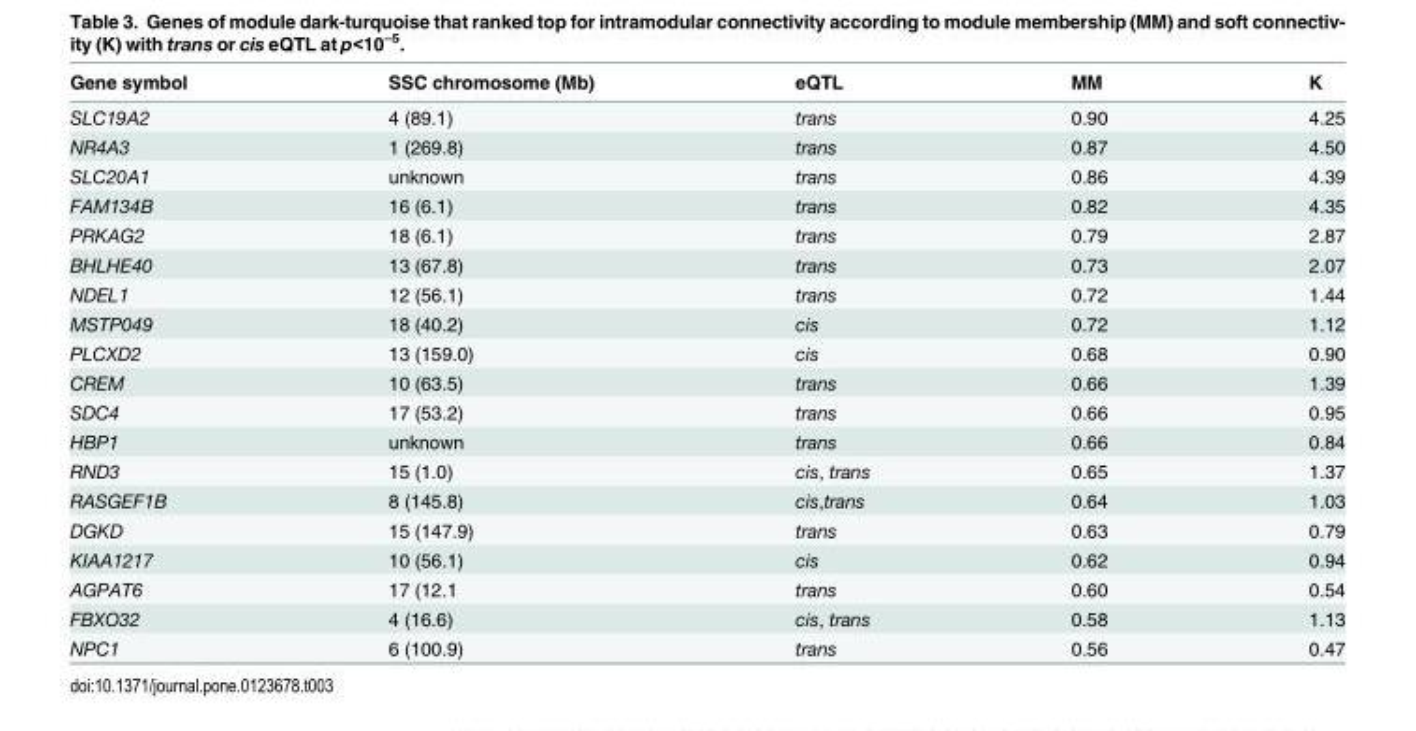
<table><thead><tr><td>Gene symbol</td><td>SSC chromosome (Mb)</td><td>eQTL</td><td>MM</td><td>K</td></tr></thead><tbody><tr><td>SLC19A2</td><td>4 (89.1)</td><td>trans</td><td>0.90</td><td>4.25</td></tr><tr><td>NR4A3</td><td>1 (269.8)</td><td>trans</td><td>0.87</td><td>4.50</td></tr><tr><td>SLC20A1</td><td>unknown</td><td>trans</td><td>0.86</td><td>4.39</td></tr><tr><td>FAM134B</td><td>16 (6.1)</td><td>trans</td><td>0.82</td><td>4.35</td></tr><tr><td>PRKAG2</td><td>18 (6.1)</td><td>trans</td><td>0.79</td><td>2.87</td></tr><tr><td>BHLHE40</td><td>13 (67.8)</td><td>trans</td><td>0.73</td><td>2.07</td></tr><tr><td>NDEL1</td><td>12 (56.1)</td><td>trans</td><td>0.72</td><td>1.44</td></tr><tr><td>MSTP049</td><td>18 (40.2)</td><td>cis</td><td>0.72</td><td>1.12</td></tr><tr><td>PLCXD2</td><td>13 (159.0)</td><td>cis</td><td>0.68</td><td>0.90</td></tr><tr><td>CREM</td><td>10 (63.5)</td><td>trans</td><td>0.66</td><td>1.39</td></tr><tr><td>SDC4</td><td>17 (53.2)</td><td>trans</td><td>0.66</td><td>0.95</td></tr><tr><td>HBP1</td><td>unknown</td><td>trans</td><td>0.66</td><td>0.84</td></tr><tr><td>RND3</td><td>15 (1.0)</td><td>cis, trans</td><td>0.65</td><td>1.37</td></tr><tr><td>RASGEF1B</td><td>8 (145.8)</td><td>cis,trans</td><td>0.64</td><td>1.03</td></tr><tr><td>DGKD</td><td>15 (147.9)</td><td>trans</td><td>0.63</td><td>0.79</td></tr><tr><td>KIAA1217</td><td>10 (56.1)</td><td>cis</td><td>0.62</td><td>0.94</td></tr><tr><td>AGPAT6</td><td>17 (12.1</td><td>trans</td><td>0.60</td><td>0.54</td></tr><tr><td>FBXO32</td><td>4 (16.6)</td><td>cis, trans</td><td>0.58</td><td>1.13</td></tr><tr><td>NPC1</td><td>6 (100.9)</td><td>trans</td><td>0.56</td><td>0.47</td></tr></tbody></table>